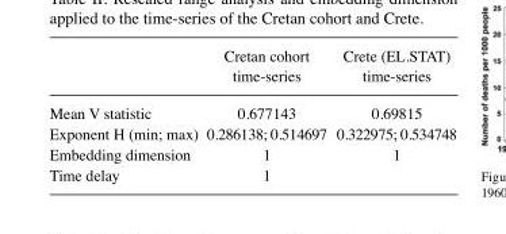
<table><thead><tr><td></td><td>Cretan cohort time-series</td><td>Crete (EL.STAT) time-series</td></tr></thead><tbody><tr><td>Mean V statistic</td><td>0.677143</td><td>0.69815</td></tr><tr><td>Exponent H (min; max)</td><td>0.286138; 0.514697</td><td>0.322975; 0.534748</td></tr><tr><td>Embedding dimension</td><td>1</td><td>1</td></tr><tr><td>Time delay</td><td>1</td><td></td></tr></tbody></table>